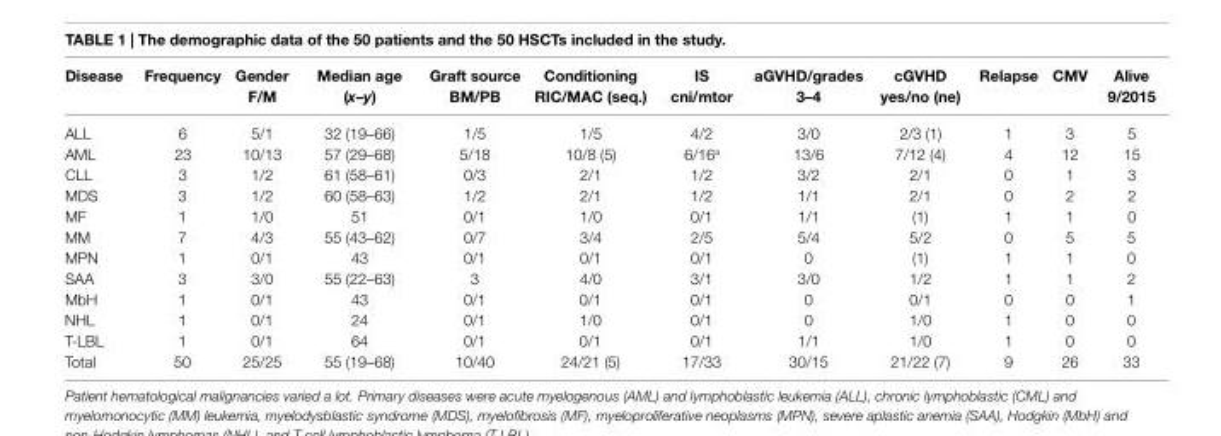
<table><thead><tr><td>Disease</td><td>Frequency</td><td>gender F/M</td><td>Median age (x–y)</td><td>graft source BM/PB</td><td>conditioning ric/Mac (seq.)</td><td>is cni/mtor</td><td>agVhD/grades 3–4</td><td>cgVhD yes/no (ne)</td><td>relapse</td><td>cMV</td><td>alive 9/2015</td></tr></thead><tbody><tr><td>ALL</td><td>6</td><td>5/1</td><td>32 (19–66)</td><td>1/5</td><td>1/5</td><td>4/2</td><td>3/0</td><td>2/3 (1)</td><td>1</td><td>3</td><td>5</td></tr><tr><td>AML</td><td>23</td><td>10/13</td><td>57 (29–68)</td><td>5/18</td><td>10/8 (5)</td><td>6/16<sup>a</sup></td><td>13/6</td><td>7/12 (4)</td><td>4</td><td>12</td><td>15</td></tr><tr><td>CLL</td><td>3</td><td>1/2</td><td>61 (58–61)</td><td>0/3</td><td>2/1</td><td>1/2</td><td>3/2</td><td>2/1</td><td>0</td><td>1</td><td>3</td></tr><tr><td>MDS</td><td>3</td><td>1/2</td><td>60 (58–63)</td><td>1/2</td><td>2/1</td><td>1/2</td><td>1/1</td><td>2/1</td><td>0</td><td>2</td><td>2</td></tr><tr><td>MF</td><td>1</td><td>1/0</td><td>51</td><td>0/1</td><td>1/0</td><td>0/1</td><td>1/1</td><td>(1)</td><td>1</td><td>1</td><td>0</td></tr><tr><td>MM</td><td>7</td><td>4/3</td><td>55 (43–62)</td><td>0/7</td><td>3/4</td><td>2/5</td><td>5/4</td><td>5/2</td><td>0</td><td>5</td><td>5</td></tr><tr><td>MPN</td><td>1</td><td>0/1</td><td>43</td><td>0/1</td><td>0/1</td><td>0/1</td><td>0</td><td>(1)</td><td>1</td><td>1</td><td>0</td></tr><tr><td>SAA</td><td>3</td><td>3/0</td><td>55 (22–63)</td><td>3</td><td>4/0</td><td>3/1</td><td>3/0</td><td>1/2</td><td>1</td><td>1</td><td>2</td></tr><tr><td>MbH</td><td>1</td><td>0/1</td><td>43</td><td>0/1</td><td>0/1</td><td>0/1</td><td>0</td><td>0/1</td><td>0</td><td>0</td><td>1</td></tr><tr><td>NHL</td><td>1</td><td>0/1</td><td>24</td><td>0/1</td><td>1/0</td><td>0/1</td><td>0</td><td>1/0</td><td>1</td><td>0</td><td>0</td></tr><tr><td>T-LBL</td><td>1</td><td>0/1</td><td>64</td><td>0/1</td><td>0/1</td><td>0/1</td><td>1/1</td><td>1/0</td><td>1</td><td>0</td><td>0</td></tr><tr><td>Total</td><td>50</td><td>25/25</td><td>55 (19–68)</td><td>10/40</td><td>24/21 (5)</td><td>17/33</td><td>30/15</td><td>21/22 (7)</td><td>9</td><td>26</td><td>33</td></tr></tbody></table>